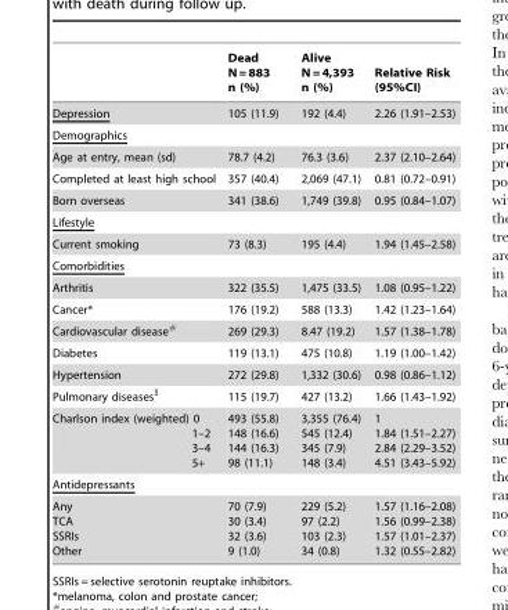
<table><thead><tr><td></td><td>Dead N = 883 n (%)</td><td>Alive N = 4,393 n (%)</td><td>Relative Risk (95%CI)</td></tr></thead><tbody><tr><td>Depression</td><td>105 (11.9)</td><td>192 (4.4)</td><td>2.26 (1.91–2.53)</td></tr><tr><td colspan="4">Demographics</td></tr><tr><td>Age at entry, mean (sd)</td><td>78.7 (4.2)</td><td>76.3 (3.6)</td><td>2.37 (2.10–2.64)</td></tr><tr><td>Completed at least high school</td><td>357 (40.4)</td><td>2,069 (47.1)</td><td>0.81 (0.72–0.91)</td></tr><tr><td>Born overseas</td><td>341 (38.6)</td><td>1,749 (39.8)</td><td>0.95 (0.84–1.07)</td></tr><tr><td colspan="4">Lifestyle</td></tr><tr><td>Current smoking</td><td>73 (8.3)</td><td>195 (4.4)</td><td>1.94 (1.45–2.58)</td></tr><tr><td colspan="4">Comorbidities</td></tr><tr><td>Arthritis</td><td>322 (35.5)</td><td>1,475 (33.5)</td><td>1.08 (0.95–1.22)</td></tr><tr><td>Cancer*</td><td>176 (19.2)</td><td>588 (13.3)</td><td>1.42 (1.23–1.64)</td></tr><tr><td>Cardiovascular disease#</td><td>269 (29.3)</td><td>8.47 (19.2)</td><td>1.57 (1.38–1.78)</td></tr><tr><td>Diabetes</td><td>119 (13.1)</td><td>475 (10.8)</td><td>1.19 (1.00–1.42)</td></tr><tr><td>Hypertension</td><td>272 (29.8)</td><td>1,332 (30.6)</td><td>0.98 (0.86–1.12)</td></tr><tr><td>Pulmonary diseases$</td><td>115 (19.7)</td><td>427 (13.2)</td><td>1.66 (1.43–1.92)</td></tr><tr><td>Charlson index (weighted) 0 1–2 3–4 5+</td><td>493 (55.8) 148 (16.6) 144 (16.3) 98 (11.1)</td><td>3,355 (76.4) 545 (12.4) 345 (7.9) 148 (3.4)</td><td>1 1.84 (1.51–2.27) 2.84 (2.29–3.52) 4.51 (3.43–5.92)</td></tr><tr><td colspan="4">Antidepressants</td></tr><tr><td>Any TCA SSRIs Other</td><td>70 (7.9) 30 (3.4) 32 (3.6) 9 (1.0)</td><td>229 (5.2) 97 (2.2) 103 (2.3) 34 (0.8)</td><td>1.57 (1.16–2.08) 1.56 (0.99–2.38) 1.57 (1.01–2.37) 1.32 (0.55–2.82)</td></tr></tbody></table>